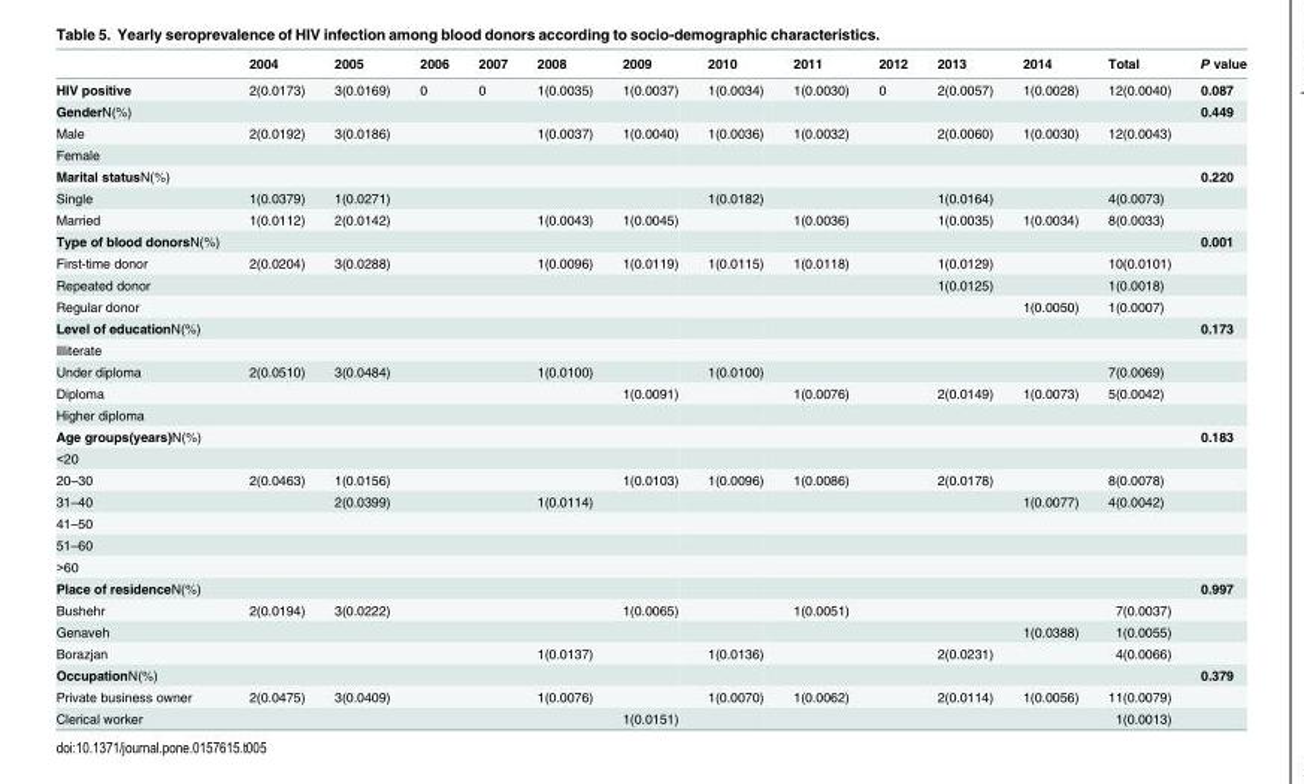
<table><thead><tr><td></td><td>2004</td><td>2005</td><td>2006</td><td>2007</td><td>2008</td><td>2009</td><td>2010</td><td>2011</td><td>2012</td><td>2013</td><td>2014</td><td>Total</td><td>P value</td></tr></thead><tbody><tr><td>HIV positive</td><td>2(0.0173)</td><td>3(0.0169)</td><td>0</td><td>0</td><td>1(0.0035)</td><td>1(0.0037)</td><td>1(0.0034)</td><td>1(0.0030)</td><td>0</td><td>2(0.0057)</td><td>1(0.0028)</td><td>12(0.0040)</td><td>0.087</td></tr><tr><td>GenderN(%)</td><td></td><td></td><td></td><td></td><td></td><td></td><td></td><td></td><td></td><td></td><td></td><td></td><td>0.449</td></tr><tr><td>Male</td><td>2(0.0192)</td><td>3(0.0186)</td><td></td><td></td><td>1(0.0037)</td><td>1(0.0040)</td><td>1(0.0036)</td><td>1(0.0032)</td><td></td><td>2(0.0060)</td><td>1(0.0030)</td><td>12(0.0043)</td><td></td></tr><tr><td colspan="14">Female</td></tr><tr><td>Marital statusN(%)</td><td></td><td></td><td></td><td></td><td></td><td></td><td></td><td></td><td></td><td></td><td></td><td></td><td>0.220</td></tr><tr><td>Single</td><td>1(0.0379)</td><td>1(0.0271)</td><td></td><td></td><td></td><td></td><td>1(0.0182)</td><td></td><td></td><td>1(0.0164)</td><td></td><td>4(0.0073)</td><td></td></tr><tr><td>Married</td><td>1(0.0112)</td><td>2(0.0142)</td><td></td><td></td><td>1(0.0043)</td><td>1(0.0045)</td><td></td><td>1(0.0036)</td><td></td><td>1(0.0035)</td><td>1(0.0034)</td><td>8(0.0033)</td><td></td></tr><tr><td>Type of blood donorsN(%)</td><td></td><td></td><td></td><td></td><td></td><td></td><td></td><td></td><td></td><td></td><td></td><td></td><td>0.001</td></tr><tr><td>First-time donor</td><td>2(0.0204)</td><td>3(0.0288)</td><td></td><td></td><td>1(0.0096)</td><td>1(0.0119)</td><td>1(0.0115)</td><td>1(0.0118)</td><td></td><td>1(0.0129)</td><td></td><td>10(0.0101)</td><td></td></tr><tr><td>Repeated donor</td><td></td><td></td><td></td><td></td><td></td><td></td><td></td><td></td><td></td><td>1(0.0125)</td><td></td><td>1(0.0018)</td><td></td></tr><tr><td>Regular donor</td><td></td><td></td><td></td><td></td><td></td><td></td><td></td><td></td><td></td><td></td><td>1(0.0050)</td><td>1(0.0007)</td><td></td></tr><tr><td>Level of educationN(%)</td><td></td><td></td><td></td><td></td><td></td><td></td><td></td><td></td><td></td><td></td><td></td><td></td><td>0.173</td></tr><tr><td colspan="14">Illiterate</td></tr><tr><td>Under diploma</td><td>2(0.0510)</td><td>3(0.0484)</td><td></td><td></td><td>1(0.0100)</td><td></td><td>1(0.0100)</td><td></td><td></td><td></td><td></td><td>7(0.0069)</td><td></td></tr><tr><td>Diploma</td><td></td><td></td><td></td><td></td><td></td><td>1(0.0091)</td><td></td><td>1(0.0076)</td><td></td><td>2(0.0149)</td><td>1(0.0073)</td><td>5(0.0042)</td><td></td></tr><tr><td colspan="14">Higher diploma</td></tr><tr><td>Age groups(years)N(%)</td><td></td><td></td><td></td><td></td><td></td><td></td><td></td><td></td><td></td><td></td><td></td><td></td><td>0.183</td></tr><tr><td colspan="14">&lt;20</td></tr><tr><td>20–30</td><td>2(0.0463)</td><td>1(0.0156)</td><td></td><td></td><td></td><td>1(0.0103)</td><td>1(0.0096)</td><td>1(0.0086)</td><td></td><td>2(0.0178)</td><td></td><td>8(0.0078)</td><td></td></tr><tr><td>31–40</td><td></td><td>2(0.0399)</td><td></td><td></td><td>1(0.0114)</td><td></td><td></td><td></td><td></td><td></td><td>1(0.0077)</td><td>4(0.0042)</td><td></td></tr><tr><td colspan="14">41–50</td></tr><tr><td colspan="14">51–60</td></tr><tr><td colspan="14">&gt;60</td></tr><tr><td>Place of residenceN(%)</td><td></td><td></td><td></td><td></td><td></td><td></td><td></td><td></td><td></td><td></td><td></td><td></td><td>0.997</td></tr><tr><td>Bushehr</td><td>2(0.0194)</td><td>3(0.0222)</td><td></td><td></td><td></td><td>1(0.0065)</td><td></td><td>1(0.0051)</td><td></td><td></td><td></td><td>7(0.0037)</td><td></td></tr><tr><td>Genaveh</td><td></td><td></td><td></td><td></td><td></td><td></td><td></td><td></td><td></td><td></td><td>1(0.0388)</td><td>1(0.0055)</td><td></td></tr><tr><td>Borazjan</td><td></td><td></td><td></td><td></td><td>1(0.0137)</td><td></td><td>1(0.0136)</td><td></td><td></td><td>2(0.0231)</td><td></td><td>4(0.0066)</td><td></td></tr><tr><td>OccupationN(%)</td><td></td><td></td><td></td><td></td><td></td><td></td><td></td><td></td><td></td><td></td><td></td><td></td><td>0.379</td></tr><tr><td>Private business owner</td><td>2(0.0475)</td><td>3(0.0409)</td><td></td><td></td><td>1(0.0076)</td><td></td><td>1(0.0070)</td><td>1(0.0062)</td><td></td><td>2(0.0114)</td><td>1(0.0056)</td><td>11(0.0079)</td><td></td></tr><tr><td>Clerical worker</td><td></td><td></td><td></td><td></td><td></td><td>1(0.0151)</td><td></td><td></td><td></td><td></td><td></td><td>1(0.0013)</td><td></td></tr></tbody></table>